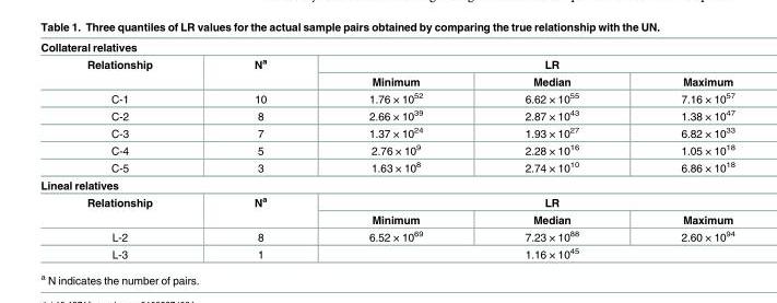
<table><tbody><tr><td colspan="5">Collateral relatives</td></tr><tr><td rowspan="2">Relationship</td><td rowspan="2">N<sup>a</sup></td><td colspan="3">LR</td></tr><tr><td>Minimum</td><td>Median</td><td>Maximum</td></tr><tr><td>C-1</td><td>10</td><td>1.76 × 10<sup>52</sup></td><td>6.62 × 10<sup>55</sup></td><td>7.16 × 10<sup>57</sup></td></tr><tr><td>C-2</td><td>8</td><td>2.66 × 10<sup>39</sup></td><td>2.87 × 10<sup>43</sup></td><td>1.38 × 10<sup>47</sup></td></tr><tr><td>C-3</td><td>7</td><td>1.37 × 10<sup>24</sup></td><td>1.93 × 10<sup>27</sup></td><td>6.82 × 10<sup>33</sup></td></tr><tr><td>C-4</td><td>5</td><td>2.76 × 10<sup>9</sup></td><td>2.28 × 10<sup>16</sup></td><td>1.05 × 10<sup>18</sup></td></tr><tr><td>C-5</td><td>3</td><td>1.63 × 10<sup>8</sup></td><td>2.74 × 10<sup>10</sup></td><td>6.86 × 10<sup>18</sup></td></tr><tr><td colspan="5">Lineal relatives</td></tr><tr><td rowspan="2">Relationship</td><td rowspan="2">N<sup>a</sup></td><td colspan="3">LR</td></tr><tr><td>Minimum</td><td>Median</td><td>Maximum</td></tr><tr><td>L-2</td><td>8</td><td>6.52 × 10<sup>69</sup></td><td>7.23 × 10<sup>88</sup></td><td>2.60 × 10<sup>94</sup></td></tr><tr><td>L-3</td><td>1</td><td colspan="3">1.16 × 10<sup>45</sup></td></tr></tbody></table>